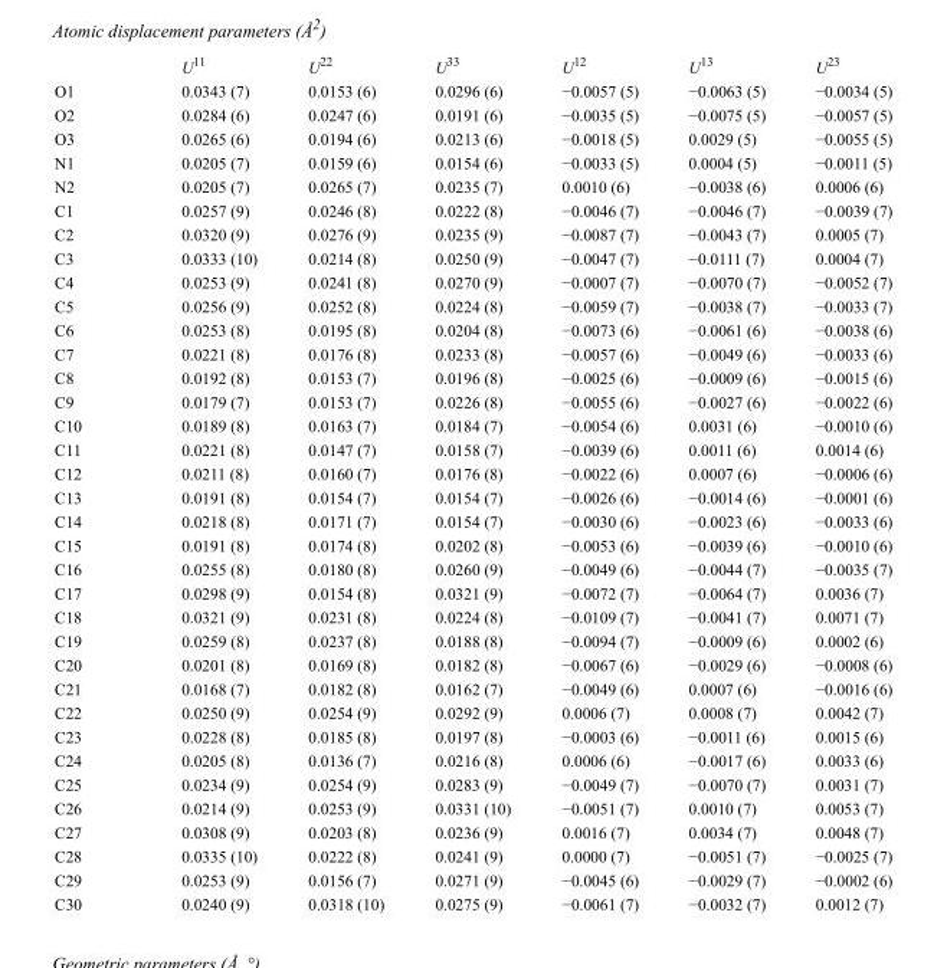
<table><thead><tr><td></td><td>U<sup>11</sup></td><td>U<sup>22</sup></td><td>U<sup>33</sup></td><td>U<sup>12</sup></td><td>U<sup>13</sup></td><td>U<sup>23</sup></td></tr></thead><tbody><tr><td>O1</td><td>0.0343 (7)</td><td>0.0153 (6)</td><td>0.0296 (6)</td><td>−0.0057 (5)</td><td>−0.0063 (5)</td><td>−0.0034 (5)</td></tr><tr><td>O2</td><td>0.0284 (6)</td><td>0.0247 (6)</td><td>0.0191 (6)</td><td>−0.0035 (5)</td><td>−0.0075 (5)</td><td>−0.0057 (5)</td></tr><tr><td>O3</td><td>0.0265 (6)</td><td>0.0194 (6)</td><td>0.0213 (6)</td><td>−0.0018 (5)</td><td>0.0029 (5)</td><td>−0.0055 (5)</td></tr><tr><td>N1</td><td>0.0205 (7)</td><td>0.0159 (6)</td><td>0.0154 (6)</td><td>−0.0033 (5)</td><td>0.0004 (5)</td><td>−0.0011 (5)</td></tr><tr><td>N2</td><td>0.0205 (7)</td><td>0.0265 (7)</td><td>0.0235 (7)</td><td>0.0010 (6)</td><td>−0.0038 (6)</td><td>0.0006 (6)</td></tr><tr><td>C1</td><td>0.0257 (9)</td><td>0.0246 (8)</td><td>0.0222 (8)</td><td>−0.0046 (7)</td><td>−0.0046 (7)</td><td>−0.0039 (7)</td></tr><tr><td>C2</td><td>0.0320 (9)</td><td>0.0276 (9)</td><td>0.0235 (9)</td><td>−0.0087 (7)</td><td>−0.0043 (7)</td><td>0.0005 (7)</td></tr><tr><td>C3</td><td>0.0333 (10)</td><td>0.0214 (8)</td><td>0.0250 (9)</td><td>−0.0047 (7)</td><td>−0.0111 (7)</td><td>0.0004 (7)</td></tr><tr><td>C4</td><td>0.0253 (9)</td><td>0.0241 (8)</td><td>0.0270 (9)</td><td>−0.0007 (7)</td><td>−0.0070 (7)</td><td>−0.0052 (7)</td></tr><tr><td>C5</td><td>0.0256 (9)</td><td>0.0252 (8)</td><td>0.0224 (8)</td><td>−0.0059 (7)</td><td>−0.0038 (7)</td><td>−0.0033 (7)</td></tr><tr><td>C6</td><td>0.0253 (8)</td><td>0.0195 (8)</td><td>0.0204 (8)</td><td>−0.0073 (6)</td><td>−0.0061 (6)</td><td>−0.0038 (6)</td></tr><tr><td>C7</td><td>0.0221 (8)</td><td>0.0176 (8)</td><td>0.0233 (8)</td><td>−0.0057 (6)</td><td>−0.0049 (6)</td><td>−0.0033 (6)</td></tr><tr><td>C8</td><td>0.0192 (8)</td><td>0.0153 (7)</td><td>0.0196 (8)</td><td>−0.0025 (6)</td><td>−0.0009 (6)</td><td>−0.0015 (6)</td></tr><tr><td>C9</td><td>0.0179 (7)</td><td>0.0153 (7)</td><td>0.0226 (8)</td><td>−0.0055 (6)</td><td>−0.0027 (6)</td><td>−0.0022 (6)</td></tr><tr><td>C10</td><td>0.0189 (8)</td><td>0.0163 (7)</td><td>0.0184 (7)</td><td>−0.0054 (6)</td><td>0.0031 (6)</td><td>−0.0010 (6)</td></tr><tr><td>C11</td><td>0.0221 (8)</td><td>0.0147 (7)</td><td>0.0158 (7)</td><td>−0.0039 (6)</td><td>0.0011 (6)</td><td>0.0014 (6)</td></tr><tr><td>C12</td><td>0.0211 (8)</td><td>0.0160 (7)</td><td>0.0176 (8)</td><td>−0.0022 (6)</td><td>0.0007 (6)</td><td>−0.0006 (6)</td></tr><tr><td>C13</td><td>0.0191 (8)</td><td>0.0154 (7)</td><td>0.0154 (7)</td><td>−0.0026 (6)</td><td>−0.0014 (6)</td><td>−0.0001 (6)</td></tr><tr><td>C14</td><td>0.0218 (8)</td><td>0.0171 (7)</td><td>0.0154 (7)</td><td>−0.0030 (6)</td><td>−0.0023 (6)</td><td>−0.0033 (6)</td></tr><tr><td>C15</td><td>0.0191 (8)</td><td>0.0174 (8)</td><td>0.0202 (8)</td><td>−0.0053 (6)</td><td>−0.0039 (6)</td><td>−0.0010 (6)</td></tr><tr><td>C16</td><td>0.0255 (8)</td><td>0.0180 (8)</td><td>0.0260 (9)</td><td>−0.0049 (6)</td><td>−0.0044 (7)</td><td>−0.0035 (7)</td></tr><tr><td>C17</td><td>0.0298 (9)</td><td>0.0154 (8)</td><td>0.0321 (9)</td><td>−0.0072 (7)</td><td>−0.0064 (7)</td><td>0.0036 (7)</td></tr><tr><td>C18</td><td>0.0321 (9)</td><td>0.0231 (8)</td><td>0.0224 (8)</td><td>−0.0109 (7)</td><td>−0.0041 (7)</td><td>0.0071 (7)</td></tr><tr><td>C19</td><td>0.0259 (8)</td><td>0.0237 (8)</td><td>0.0188 (8)</td><td>−0.0094 (7)</td><td>−0.0009 (6)</td><td>0.0002 (6)</td></tr><tr><td>C20</td><td>0.0201 (8)</td><td>0.0169 (8)</td><td>0.0182 (8)</td><td>−0.0067 (6)</td><td>−0.0029 (6)</td><td>−0.0008 (6)</td></tr><tr><td>C21</td><td>0.0168 (7)</td><td>0.0182 (8)</td><td>0.0162 (7)</td><td>−0.0049 (6)</td><td>0.0007 (6)</td><td>−0.0016 (6)</td></tr><tr><td>C22</td><td>0.0250 (9)</td><td>0.0254 (9)</td><td>0.0292 (9)</td><td>0.0006 (7)</td><td>0.0008 (7)</td><td>0.0042 (7)</td></tr><tr><td>C23</td><td>0.0228 (8)</td><td>0.0185 (8)</td><td>0.0197 (8)</td><td>−0.0003 (6)</td><td>−0.0011 (6)</td><td>0.0015 (6)</td></tr><tr><td>C24</td><td>0.0205 (8)</td><td>0.0136 (7)</td><td>0.0216 (8)</td><td>0.0006 (6)</td><td>−0.0017 (6)</td><td>0.0033 (6)</td></tr><tr><td>C25</td><td>0.0234 (9)</td><td>0.0254 (9)</td><td>0.0283 (9)</td><td>−0.0049 (7)</td><td>−0.0070 (7)</td><td>0.0031 (7)</td></tr><tr><td>C26</td><td>0.0214 (9)</td><td>0.0253 (9)</td><td>0.0331 (10)</td><td>−0.0051 (7)</td><td>0.0010 (7)</td><td>0.0053 (7)</td></tr><tr><td>C27</td><td>0.0308 (9)</td><td>0.0203 (8)</td><td>0.0236 (9)</td><td>0.0016 (7)</td><td>0.0034 (7)</td><td>0.0048 (7)</td></tr><tr><td>C28</td><td>0.0335 (10)</td><td>0.0222 (8)</td><td>0.0241 (9)</td><td>0.0000 (7)</td><td>−0.0051 (7)</td><td>−0.0025 (7)</td></tr><tr><td>C29</td><td>0.0253 (9)</td><td>0.0156 (7)</td><td>0.0271 (9)</td><td>−0.0045 (6)</td><td>−0.0029 (7)</td><td>−0.0002 (6)</td></tr><tr><td>C30</td><td>0.0240 (9)</td><td>0.0318 (10)</td><td>0.0275 (9)</td><td>−0.0061 (7)</td><td>−0.0032 (7)</td><td>0.0012 (7)</td></tr></tbody></table>